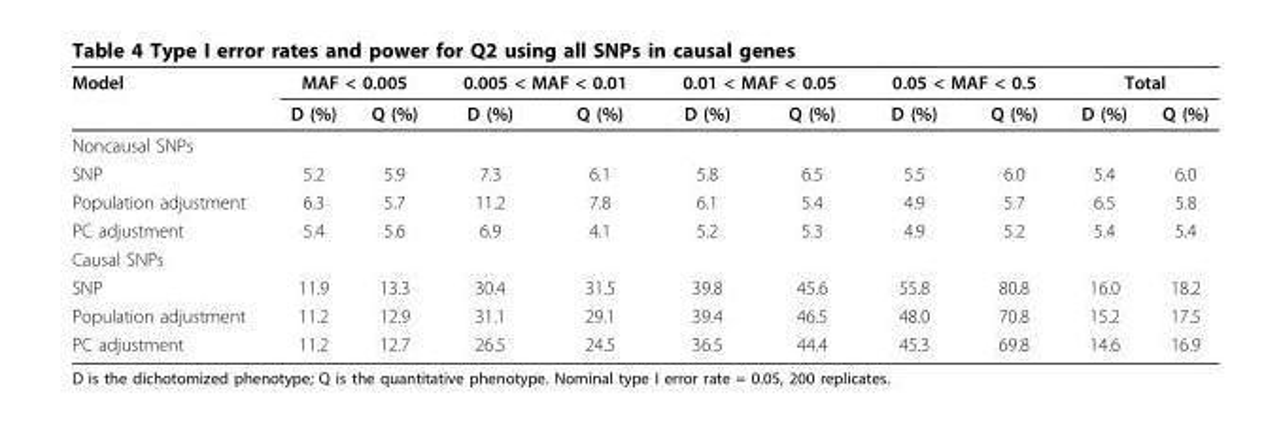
<table><thead><tr><td rowspan="2">Model</td><td colspan="2">MAF &lt; 0.005</td><td colspan="2">0.005 &lt; MAF &lt; 0.01</td><td colspan="2">0.01 &lt; MAF &lt; 0.05</td><td colspan="2">0.05 &lt; MAF &lt; 0.5</td><td colspan="2">Total</td></tr><tr><td>D (%)</td><td>Q (%)</td><td>D (%)</td><td>Q (%)</td><td>D (%)</td><td>Q (%)</td><td>D (%)</td><td>Q (%)</td><td>D (%)</td><td>Q (%)</td></tr></thead><tbody><tr><td colspan="11">Noncausal SNPs</td></tr><tr><td>SNP</td><td>5.2</td><td>5.9</td><td>7.3</td><td>6.1</td><td>5.8</td><td>6.5</td><td>5.5</td><td>6.0</td><td>5.4</td><td>6.0</td></tr><tr><td>Population adjustment</td><td>6.3</td><td>5.7</td><td>11.2</td><td>7.8</td><td>6.1</td><td>5.4</td><td>4.9</td><td>5.7</td><td>6.5</td><td>5.8</td></tr><tr><td>PC adjustment</td><td>5.4</td><td>5.6</td><td>6.9</td><td>4.1</td><td>5.2</td><td>5.3</td><td>4.9</td><td>5.2</td><td>5.4</td><td>5.4</td></tr><tr><td colspan="11">Causal SNPs</td></tr><tr><td>SNP</td><td>11.9</td><td>13.3</td><td>30.4</td><td>31.5</td><td>39.8</td><td>45.6</td><td>55.8</td><td>80.8</td><td>16.0</td><td>18.2</td></tr><tr><td>Population adjustment</td><td>11.2</td><td>12.9</td><td>31.1</td><td>29.1</td><td>39.4</td><td>46.5</td><td>48.0</td><td>70.8</td><td>15.2</td><td>17.5</td></tr><tr><td>PC adjustment</td><td>11.2</td><td>12.7</td><td>26.5</td><td>24.5</td><td>36.5</td><td>44.4</td><td>45.3</td><td>69.8</td><td>14.6</td><td>16.9</td></tr></tbody></table>